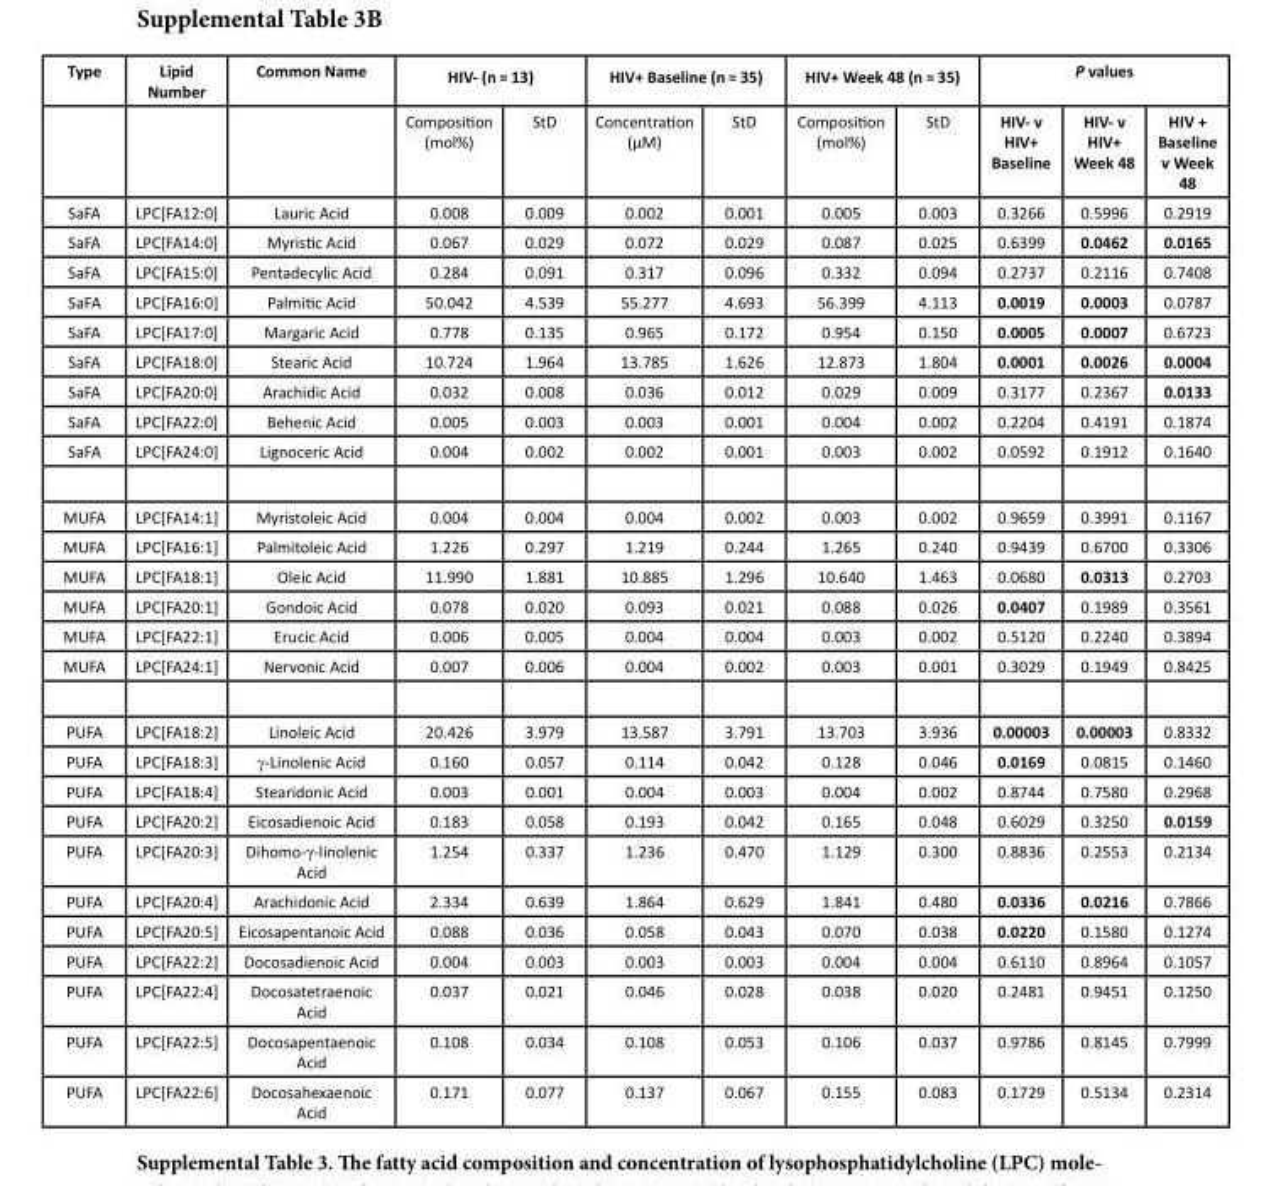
<table><thead><tr><td rowspan="2">Type</td><td rowspan="2">Lipid Number</td><td rowspan="2">Common Name</td><td colspan="2">HIV- (n = 13)</td><td colspan="2">HIV+ Baseline (n = 35)</td><td colspan="2">HIV+ Week 48 (n = 35)</td><td colspan="3">P values</td></tr><tr><td>Composition (mol%)</td><td>StD</td><td>Concentration (μM)</td><td>StD</td><td>Composition (mol%)</td><td>StD</td><td>HIV- v HIV+ Baseline</td><td>HIV- v HIV+ Week 48</td><td>HIV + Baseline v Week 48</td></tr></thead><tbody><tr><td>SaFA</td><td>LPC[FA12:0]</td><td>Lauric Acid</td><td>0.008</td><td>0.009</td><td>0.002</td><td>0.001</td><td>0.005</td><td>0.003</td><td>0.3266</td><td>0.5996</td><td>0.2919</td></tr><tr><td>SaFA</td><td>LPC[FA14:0]</td><td>Myristic Acid</td><td>0.067</td><td>0.029</td><td>0.072</td><td>0.029</td><td>0.087</td><td>0.025</td><td>0.6399</td><td>0.0462</td><td>0.0165</td></tr><tr><td>SaFA</td><td>LPC[FA15:0]</td><td>Pentadecylic Acid</td><td>0.284</td><td>0.091</td><td>0.317</td><td>0.096</td><td>0.332</td><td>0.094</td><td>0.2737</td><td>0.2116</td><td>0.7408</td></tr><tr><td>SaFA</td><td>LPC[FA16:0]</td><td>Palmitic Acid</td><td>50.042</td><td>4.539</td><td>55.277</td><td>4.693</td><td>56.399</td><td>4.113</td><td>0.0019</td><td>0.0003</td><td>0.0787</td></tr><tr><td>SaFA</td><td>LPC[FA17:0]</td><td>Margaric Acid</td><td>0.778</td><td>0.135</td><td>0.965</td><td>0.172</td><td>0.954</td><td>0.150</td><td>0.0005</td><td>0.0007</td><td>0.6723</td></tr><tr><td>SaFA</td><td>LPC[FA18:0]</td><td>Stearic Acid</td><td>10.724</td><td>1.964</td><td>13.785</td><td>1.626</td><td>12.873</td><td>1.804</td><td>0.0001</td><td>0.0026</td><td>0.0004</td></tr><tr><td>SaFA</td><td>LPC[FA20:0]</td><td>Arachidic Acid</td><td>0.032</td><td>0.008</td><td>0.036</td><td>0.012</td><td>0.029</td><td>0.009</td><td>0.3177</td><td>0.2367</td><td>0.0133</td></tr><tr><td>SaFA</td><td>LPC[FA22:0]</td><td>Behenic Acid</td><td>0.005</td><td>0.003</td><td>0.003</td><td>0.001</td><td>0.004</td><td>0.002</td><td>0.2204</td><td>0.4191</td><td>0.1874</td></tr><tr><td>SaFA</td><td>LPC[FA24:0]</td><td>Lignoceric Acid</td><td>0.004</td><td>0.002</td><td>0.002</td><td>0.001</td><td>0.003</td><td>0.002</td><td>0.0592</td><td>0.1912</td><td>0.1640</td></tr><tr><td>MUFA</td><td>LPC[FA14:1]</td><td>Myristoleic Acid</td><td>0.004</td><td>0.004</td><td>0.004</td><td>0.002</td><td>0.003</td><td>0.002</td><td>0.9659</td><td>0.3991</td><td>0.1167</td></tr><tr><td>MUFA</td><td>LPC[FA16:1]</td><td>Palmitoleic Acid</td><td>1.226</td><td>0.297</td><td>1.219</td><td>0.244</td><td>1.265</td><td>0.240</td><td>0.9439</td><td>0.6700</td><td>0.3306</td></tr><tr><td>MUFA</td><td>LPC[FA18:1]</td><td>Oleic Acid</td><td>11.990</td><td>1.881</td><td>10.885</td><td>1.296</td><td>10.640</td><td>1.463</td><td>0.0680</td><td>0.0313</td><td>0.2703</td></tr><tr><td>MUFA</td><td>LPC[FA20:1]</td><td>Gondoic Acid</td><td>0.078</td><td>0.020</td><td>0.093</td><td>0.021</td><td>0.088</td><td>0.026</td><td>0.0407</td><td>0.1989</td><td>0.3561</td></tr><tr><td>MUFA</td><td>LPC[FA22:1]</td><td>Erucic Acid</td><td>0.006</td><td>0.005</td><td>0.004</td><td>0.004</td><td>0.003</td><td>0.002</td><td>0.5120</td><td>0.2240</td><td>0.3894</td></tr><tr><td>MUFA</td><td>LPC[FA24:1]</td><td>Nervonic Acid</td><td>0.007</td><td>0.006</td><td>0.004</td><td>0.002</td><td>0.003</td><td>0.001</td><td>0.3029</td><td>0.1949</td><td>0.8425</td></tr><tr><td>PUFA</td><td>LPC[FA18:2]</td><td>Linoleic Acid</td><td>20.426</td><td>3.979</td><td>13.587</td><td>3.791</td><td>13.703</td><td>3.936</td><td>0.00003</td><td>0.00003</td><td>0.8332</td></tr><tr><td>PUFA</td><td>LPC[FA18:3]</td><td>γ-Linolenic Acid</td><td>0.160</td><td>0.057</td><td>0.114</td><td>0.042</td><td>0.128</td><td>0.046</td><td>0.0169</td><td>0.0815</td><td>0.1460</td></tr><tr><td>PUFA</td><td>LPC[FA18:4]</td><td>Stearidonic Acid</td><td>0.003</td><td>0.001</td><td>0.004</td><td>0.003</td><td>0.004</td><td>0.002</td><td>0.8744</td><td>0.7580</td><td>0.2968</td></tr><tr><td>PUFA</td><td>LPC[FA20:2]</td><td>Eicosadienoic Acid</td><td>0.183</td><td>0.058</td><td>0.193</td><td>0.042</td><td>0.165</td><td>0.048</td><td>0.6029</td><td>0.3250</td><td>0.0159</td></tr><tr><td>PUFA</td><td>LPC[FA20:3]</td><td>Dihomo-γ-linolenic Acid</td><td>1.254</td><td>0.337</td><td>1.236</td><td>0.470</td><td>1.129</td><td>0.300</td><td>0.8836</td><td>0.2553</td><td>0.2134</td></tr><tr><td>PUFA</td><td>LPC[FA20:4]</td><td>Arachidonic Acid</td><td>2.334</td><td>0.639</td><td>1.864</td><td>0.629</td><td>1.841</td><td>0.480</td><td>0.0336</td><td>0.0216</td><td>0.7866</td></tr><tr><td>PUFA</td><td>LPC[FA20:5]</td><td>Eicosapentanoic Acid</td><td>0.088</td><td>0.036</td><td>0.058</td><td>0.043</td><td>0.070</td><td>0.038</td><td>0.0220</td><td>0.1580</td><td>0.1274</td></tr><tr><td>PUFA</td><td>LPC[FA22:2]</td><td>Docosadienoic Acid</td><td>0.004</td><td>0.003</td><td>0.003</td><td>0.003</td><td>0.004</td><td>0.004</td><td>0.6110</td><td>0.8964</td><td>0.1057</td></tr><tr><td>PUFA</td><td>LPC[FA22:4]</td><td>Docosatetraenoic Acid</td><td>0.037</td><td>0.021</td><td>0.046</td><td>0.028</td><td>0.038</td><td>0.020</td><td>0.2481</td><td>0.9451</td><td>0.1250</td></tr><tr><td>PUFA</td><td>LPC[FA22:5]</td><td>Docosapentaenoic Acid</td><td>0.108</td><td>0.034</td><td>0.108</td><td>0.053</td><td>0.106</td><td>0.037</td><td>0.9786</td><td>0.8145</td><td>0.7999</td></tr><tr><td>PUFA</td><td>LPC[FA22:6]</td><td>Docosahexaenoic Acid</td><td>0.171</td><td>0.077</td><td>0.137</td><td>0.067</td><td>0.155</td><td>0.083</td><td>0.1729</td><td>0.5134</td><td>0.2314</td></tr></tbody></table>